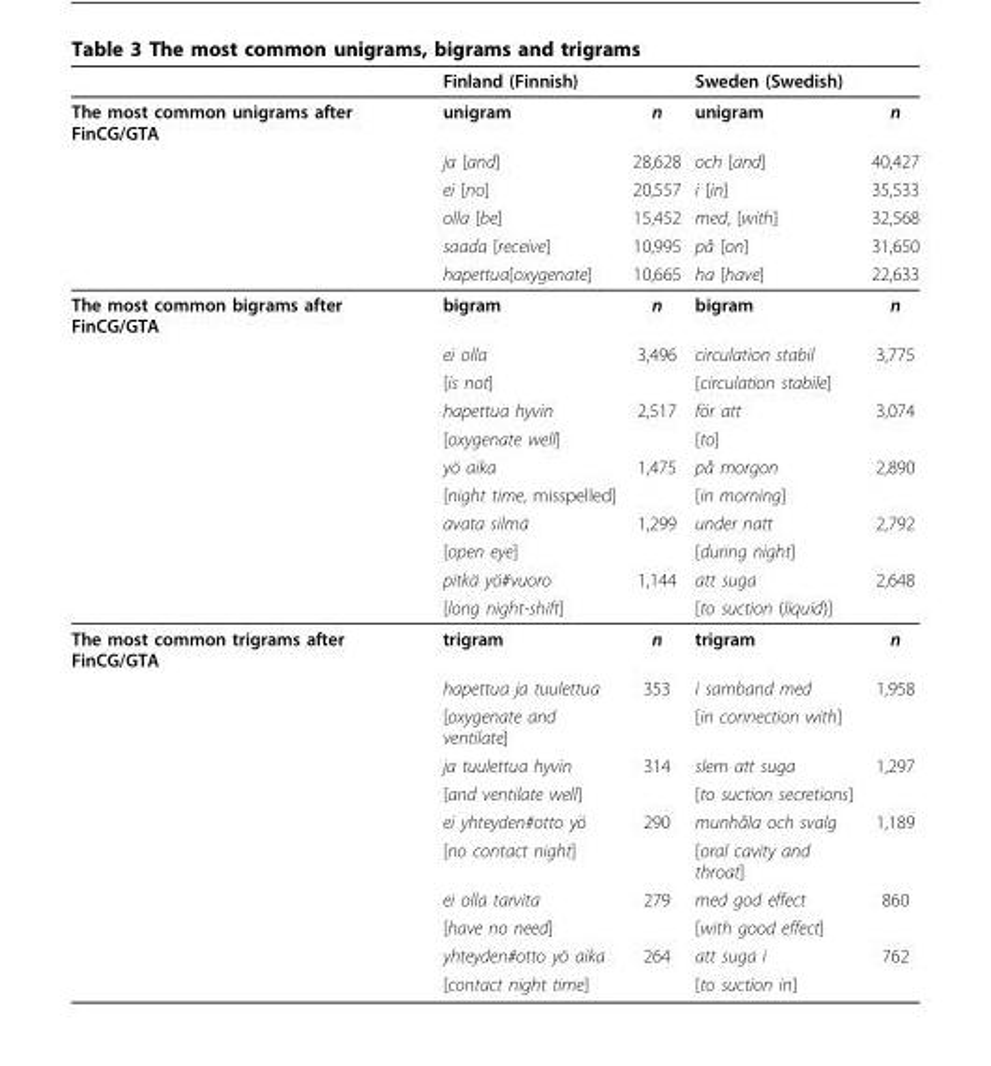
<table><thead><tr><td rowspan="2">The most common unigrams after FinCG/GTA</td><td colspan="2">Finland (Finnish)</td><td colspan="2">Sweden (Swedish)</td></tr><tr><td>unigram</td><td>n</td><td>unigram</td><td>n</td></tr></thead><tbody><tr><td></td><td>ja [and]</td><td>28,628</td><td>och [and]</td><td>40,427</td></tr><tr><td></td><td>ei [no]</td><td>20,557</td><td>i [in]</td><td>35,533</td></tr><tr><td></td><td>olla [be]</td><td>15,452</td><td>med, [with]</td><td>32,568</td></tr><tr><td></td><td>saada [receive]</td><td>10,995</td><td>på [on]</td><td>31,650</td></tr><tr><td></td><td>hapettua[oxygenate]</td><td>10,665</td><td>ha [have]</td><td>22,633</td></tr><tr><td rowspan="11">The most common bigrams after FinCG/GTA</td><td>bigram</td><td>n</td><td>bigram</td><td>n</td></tr><tr><td>ei olla</td><td>3,496</td><td>circulation stabil</td><td>3,775</td></tr><tr><td>[is not]</td><td></td><td>[circulation stabile]</td><td></td></tr><tr><td>hapettua hyvin</td><td>2,517</td><td>för att</td><td>3,074</td></tr><tr><td>[oxygenate well]</td><td></td><td>[to]</td><td></td></tr><tr><td>yö aika</td><td>1,475</td><td>på morgon</td><td>2,890</td></tr><tr><td>[night time, misspelled]</td><td></td><td>[in morning]</td><td></td></tr><tr><td>avata silmä</td><td>1,299</td><td>under natt</td><td>2,792</td></tr><tr><td>[open eye]</td><td></td><td>[during night]</td><td></td></tr><tr><td>pitkä yö#vuoro</td><td>1,144</td><td>att suga</td><td>2,648</td></tr><tr><td>[long night-shift]</td><td></td><td>[to suction (liquid)]</td><td></td></tr><tr><td rowspan="11">The most common trigrams after FinCG/GTA</td><td>trigram</td><td>n</td><td>trigram</td><td>n</td></tr><tr><td>hapettua ja tuulettua</td><td>353</td><td>i samband med</td><td>1,958</td></tr><tr><td>[oxygenate and ventilate]</td><td></td><td>[in connection with]</td><td></td></tr><tr><td>ja tuulettua hyvin</td><td>314</td><td>slem att suga</td><td>1,297</td></tr><tr><td>[and ventilate well]</td><td></td><td>[to suction secretions]</td><td></td></tr><tr><td>ei yhteyden#otto yö</td><td>290</td><td>munhåla och svalg</td><td>1,189</td></tr><tr><td>[no contact night]</td><td></td><td>[oral cavity and throat]</td><td></td></tr><tr><td>ei olla tarvita</td><td>279</td><td>med god effect</td><td>860</td></tr><tr><td>[have no need]</td><td></td><td>[with good effect]</td><td></td></tr><tr><td>yhteyden#otto yö aika</td><td>264</td><td>att suga i</td><td>762</td></tr><tr><td>[contact night time]</td><td></td><td>[to suction in]</td><td></td></tr></tbody></table>